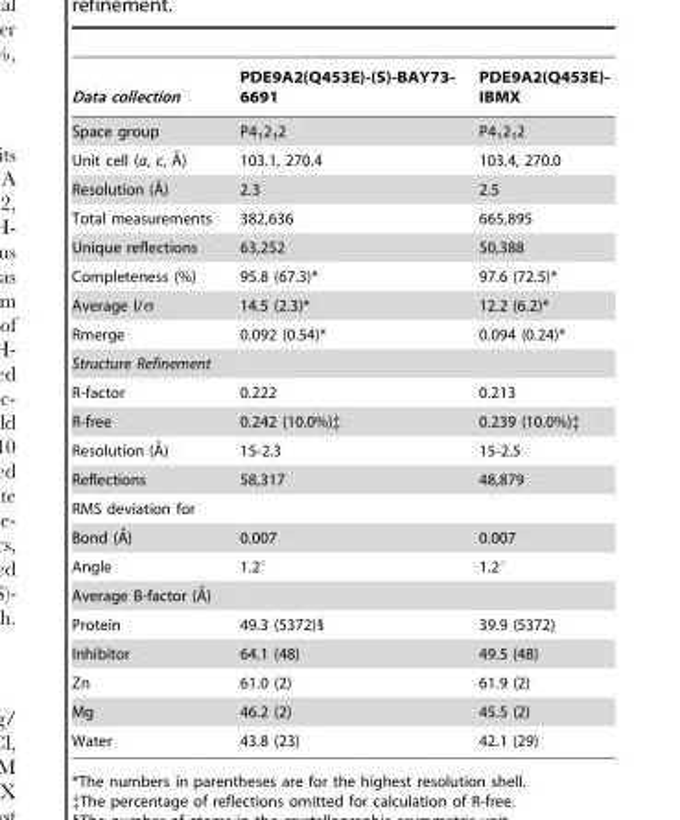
<table><thead><tr><td>Data collection</td><td>PDE9A2(Q453E)-(S)-BAY73- 6691</td><td>PDE9A2(Q453E)- IBMX</td></tr></thead><tbody><tr><td>Space group</td><td>P4<sub>1</sub>2<sub>1</sub>2</td><td>P4<sub>1</sub>2<sub>1</sub>2</td></tr><tr><td>Unit cell (a, c, A˚)</td><td>103.1, 270.4</td><td>103.4, 270.0</td></tr><tr><td>Resolution (A˚)</td><td>2.3</td><td>2.5</td></tr><tr><td>Total measurements</td><td>382,636</td><td>665,895</td></tr><tr><td>Unique reflections</td><td>63,252</td><td>50,388</td></tr><tr><td>Completeness (%)</td><td>95.8 (67.3)*</td><td>97.6 (72.5)*</td></tr><tr><td>Average I/σ</td><td>14.5 (2.3)*</td><td>12.2 (6.2)*</td></tr><tr><td>Rmerge</td><td>0.092 (0.54)*</td><td>0.094 (0.24)*</td></tr><tr><td colspan="3">Structure Refinement</td></tr><tr><td>R-factor</td><td>0.222</td><td>0.213</td></tr><tr><td>R-free</td><td>0.242 (10.0%)‡</td><td>0.239 (10.0%)‡</td></tr><tr><td>Resolution (A˚)</td><td>15-2.3</td><td>15-2.5</td></tr><tr><td>Reflections</td><td>58,317</td><td>48,879</td></tr><tr><td colspan="3">RMS deviation for</td></tr><tr><td>Bond (A˚)</td><td>0.007</td><td>0.007</td></tr><tr><td>Angle</td><td>1.2°</td><td>1.2°</td></tr><tr><td colspan="3">Average B-factor (A˚)</td></tr><tr><td>Protein</td><td>49.3 (5372)§</td><td>39.9 (5372)</td></tr><tr><td>Inhibitor</td><td>64.1 (48)</td><td>49.5 (48)</td></tr><tr><td>Zn</td><td>61.0 (2)</td><td>61.9 (2)</td></tr><tr><td>Mg</td><td>46.2 (2)</td><td>45.5 (2)</td></tr><tr><td>Water</td><td>43.8 (23)</td><td>42.1 (29)</td></tr></tbody></table>